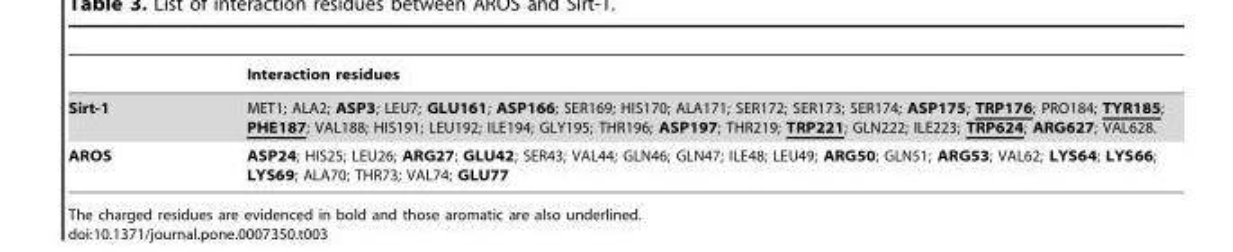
<table><thead><tr><td></td><td>Interaction residues</td></tr></thead><tbody><tr><td>Sirt-1</td><td>MET1; ALA2; ASP3; LEU7; GLU161; ASP166; SER169; HIS170; ALA171; SER172; SER173; SER174; ASP175; TRP176; PRO184; TYR185; PHE187; VAL188; HIS191; LEU192; ILE194; GLY195; THR196; ASP197; THR219; TRP221; GLN222; ILE223; TRP624; ARG627; VAL628.</td></tr><tr><td>AROS</td><td>ASP24; HIS25; LEU26; ARG27; GLU42; SER43; VAL44; GLN46; GLN47; ILE48; LEU49; ARG50; GLN51; ARG53; VAL62; LYS64; LYS66; LYS69; ALA70; THR73; VAL74; GLU77</td></tr></tbody></table>